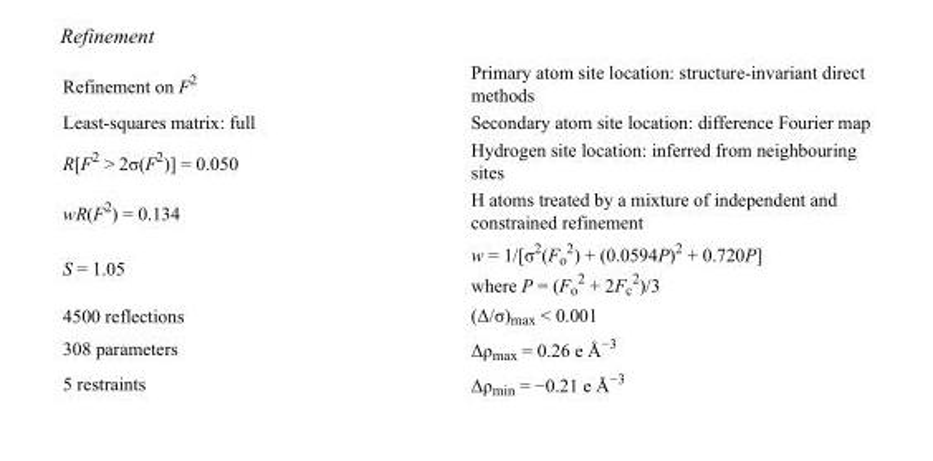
<table><tbody><tr><td>Refinement on F<sup>2</sup></td><td>Primary atom site location: structure-invariant direct methods</td></tr><tr><td>Least-squares matrix: full</td><td>Secondary atom site location: difference Fourier map</td></tr><tr><td>R[F<sup>2</sup> &gt; 2σ(F<sup>2</sup>)] = 0.050</td><td>Hydrogen site location: inferred from neighbouring sites</td></tr><tr><td>wR(F<sup>2</sup>) = 0.134</td><td>H atoms treated by a mixture of independent and constrained refinement</td></tr><tr><td>S = 1.05</td><td>w = 1/[σ<sup>2</sup>(F<sub>o</sub> <sup>2</sup>) + (0.0594P)<sup>2</sup> + 0.720P] where P = (F<sub>o</sub> <sup>2</sup> + 2F<sub>c</sub> <sup>2</sup>)/3</td></tr><tr><td>4500 reflections</td><td>(Δ/σ)<sub>max</sub> &lt; 0.001</td></tr><tr><td>308 parameters</td><td>Δρ<sub>max</sub> = 0.26 e Å<sup>−3</sup></td></tr><tr><td>5 restraints</td><td>Δρ<sub>min</sub> = −0.21 e Å<sup>−3</sup></td></tr></tbody></table>